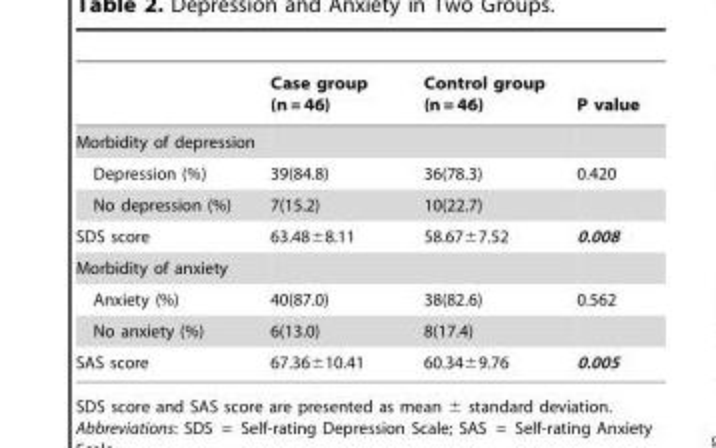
<table><thead><tr><td></td><td>Case group (n = 46)</td><td>Control group (n = 46)</td><td>P value</td></tr></thead><tbody><tr><td colspan="4">Morbidity of depression</td></tr><tr><td>Depression (%)</td><td>39(84.8)</td><td>36(78.3)</td><td>0.420</td></tr><tr><td>No depression (%)</td><td>7(15.2)</td><td>10(22.7)</td><td></td></tr><tr><td>SDS score</td><td>63.48±8.11</td><td>58.67±7.52</td><td>0.008</td></tr><tr><td colspan="4">Morbidity of anxiety</td></tr><tr><td>Anxiety (%)</td><td>40(87.0)</td><td>38(82.6)</td><td>0.562</td></tr><tr><td>No anxiety (%)</td><td>6(13.0)</td><td>8(17.4)</td><td></td></tr><tr><td>SAS score</td><td>67.36±10.41</td><td>60.34±9.76</td><td>0.005</td></tr></tbody></table>